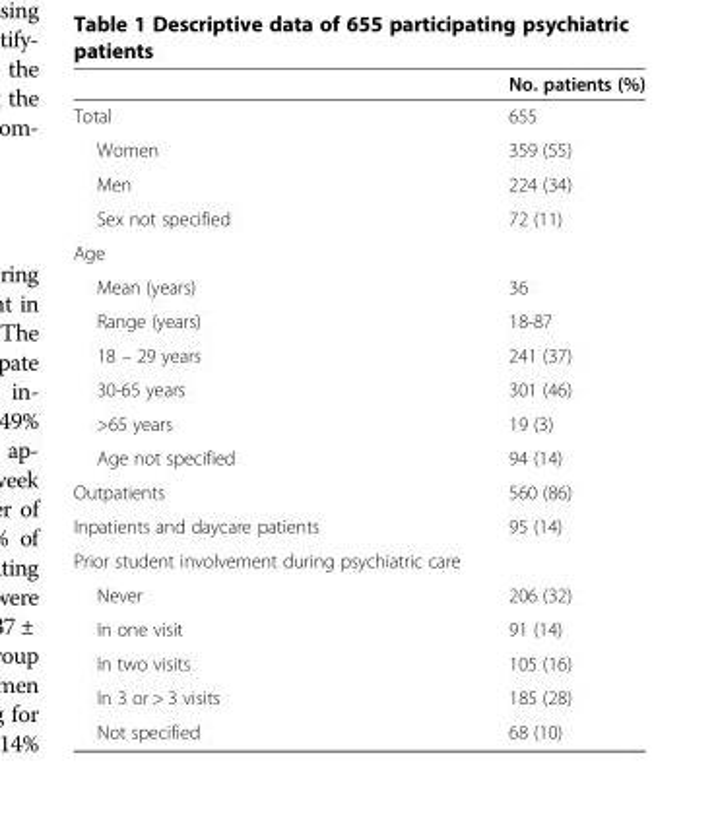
<table><thead><tr><td></td><td>No. patients (%)</td></tr></thead><tbody><tr><td>Total</td><td>655</td></tr><tr><td>Women</td><td>359 (55)</td></tr><tr><td>Men</td><td>224 (34)</td></tr><tr><td>Sex not specified</td><td>72 (11)</td></tr><tr><td colspan="2">Age</td></tr><tr><td>Mean (years)</td><td>36</td></tr><tr><td>Range (years)</td><td>18-87</td></tr><tr><td>18 – 29 years</td><td>241 (37)</td></tr><tr><td>30-65 years</td><td>301 (46)</td></tr><tr><td>&gt;65 years</td><td>19 (3)</td></tr><tr><td>Age not specified</td><td>94 (14)</td></tr><tr><td>Outpatients</td><td>560 (86)</td></tr><tr><td>Inpatients and daycare patients</td><td>95 (14)</td></tr><tr><td colspan="2">Prior student involvement during psychiatric care</td></tr><tr><td>Never</td><td>206 (32)</td></tr><tr><td>In one visit</td><td>91 (14)</td></tr><tr><td>In two visits</td><td>105 (16)</td></tr><tr><td>In 3 or &gt; 3 visits</td><td>185 (28)</td></tr><tr><td>Not specified</td><td>68 (10)</td></tr></tbody></table>